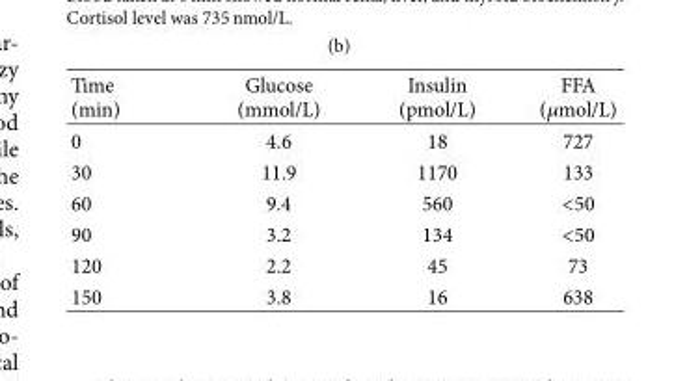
<table><thead><tr><td>Time (min)</td><td>Glucose (mmol/L)</td><td>Insulin (pmol/L)</td><td>FFA (𝜇𝜇mol/L)</td></tr></thead><tbody><tr><td>0</td><td>4.6</td><td>18</td><td>727</td></tr><tr><td>30</td><td>11.9</td><td>1170</td><td>133</td></tr><tr><td>60</td><td>9.4</td><td>560</td><td>&lt;50</td></tr><tr><td>90</td><td>3.2</td><td>134</td><td>&lt;50</td></tr><tr><td>120</td><td>2.2</td><td>45</td><td>73</td></tr><tr><td>150</td><td>3.8</td><td>16</td><td>638</td></tr></tbody></table>